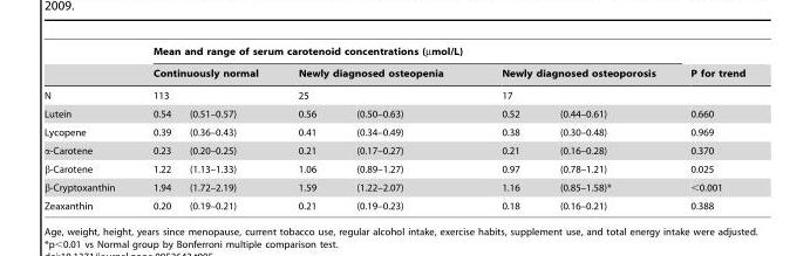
<table><thead><tr><td rowspan="4">N Lutein</td><td colspan="6">Mean and range of serum carotenoid concentrations (µmol/L)</td><td rowspan="4">P for trend 0.660</td></tr><tr><td rowspan="2" colspan="2">Continuously normal 113</td><td rowspan="2" colspan="2">Newly diagnosed osteopenia 25</td><td rowspan="2" colspan="2">Newly diagnosed osteoporosis 17</td></tr><tr></tr><tr><td>0.54</td><td>(0.51–0.57)</td><td>0.56</td><td>(0.50–0.63)</td><td>0.52</td><td>(0.44–0.61)</td></tr></thead><tbody><tr><td>Lycopene</td><td>0.39</td><td>(0.36–0.43)</td><td>0.41</td><td>(0.34–0.49)</td><td>0.38</td><td>(0.30–0.48)</td><td>0.969</td></tr><tr><td>α-Carotene</td><td>0.23</td><td>(0.20–0.25)</td><td>0.21</td><td>(0.17–0.27)</td><td>0.21</td><td>(0.16–0.28)</td><td>0.370</td></tr><tr><td>β-Carotene</td><td>1.22</td><td>(1.13–1.33)</td><td>1.06</td><td>(0.89–1.27)</td><td>0.97</td><td>(0.78–1.21)</td><td>0.025</td></tr><tr><td>β-Cryptoxanthin</td><td>1.94</td><td>(1.72–2.19)</td><td>1.59</td><td>(1.22–2.07)</td><td>1.16</td><td>(0.85–1.58)*</td><td>&lt;0.001</td></tr><tr><td>Zeaxanthin</td><td>0.20</td><td>(0.19–0.21)</td><td>0.21</td><td>(0.19–0.23)</td><td>0.18</td><td>(0.16–0.21)</td><td>0.388</td></tr></tbody></table>